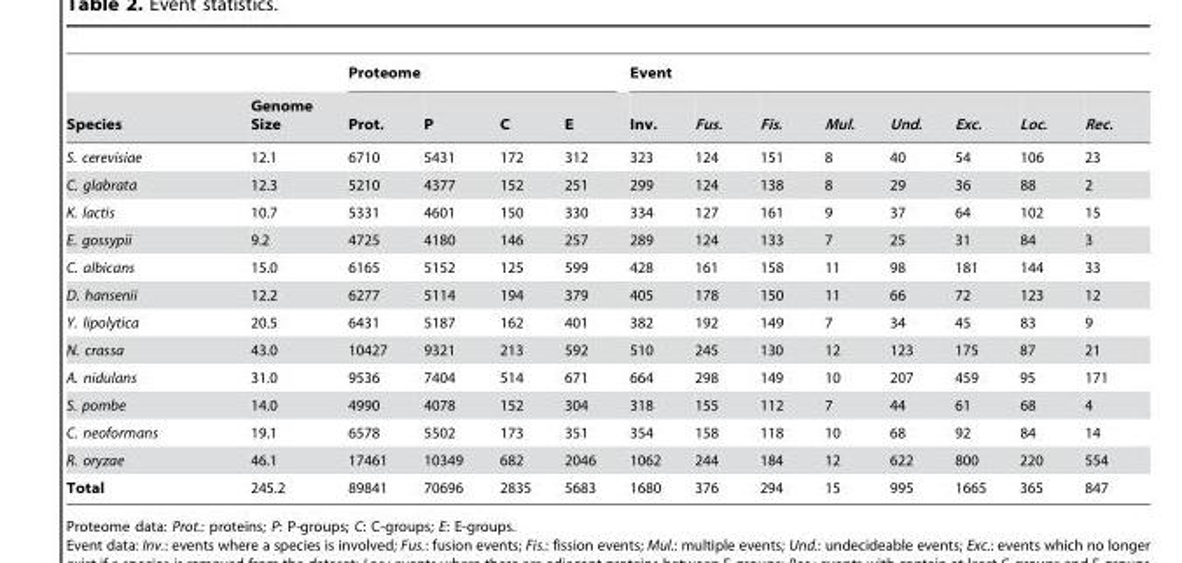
<table><thead><tr><td rowspan="2">Species</td><td rowspan="2">Genome Size</td><td colspan="4">Proteome</td><td colspan="8">Event</td></tr><tr><td>Prot.</td><td>P</td><td>C</td><td>E</td><td>Inv.</td><td>Fus.</td><td>Fis.</td><td>Mul.</td><td>Und.</td><td>Exc.</td><td>Loc.</td><td>Rec.</td></tr></thead><tbody><tr><td>S. cerevisiae</td><td>12.1</td><td>6710</td><td>5431</td><td>172</td><td>312</td><td>323</td><td>124</td><td>151</td><td>8</td><td>40</td><td>54</td><td>106</td><td>23</td></tr><tr><td>C. glabrata</td><td>12.3</td><td>5210</td><td>4377</td><td>152</td><td>251</td><td>299</td><td>124</td><td>138</td><td>8</td><td>29</td><td>36</td><td>88</td><td>2</td></tr><tr><td>K. lactis</td><td>10.7</td><td>5331</td><td>4601</td><td>150</td><td>330</td><td>334</td><td>127</td><td>161</td><td>9</td><td>37</td><td>64</td><td>102</td><td>15</td></tr><tr><td>E. gossypii</td><td>9.2</td><td>4725</td><td>4180</td><td>146</td><td>257</td><td>289</td><td>124</td><td>133</td><td>7</td><td>25</td><td>31</td><td>84</td><td>3</td></tr><tr><td>C. albicans</td><td>15.0</td><td>6165</td><td>5152</td><td>125</td><td>599</td><td>428</td><td>161</td><td>158</td><td>11</td><td>98</td><td>181</td><td>144</td><td>33</td></tr><tr><td>D. hansenii</td><td>12.2</td><td>6277</td><td>5114</td><td>194</td><td>379</td><td>405</td><td>178</td><td>150</td><td>11</td><td>66</td><td>72</td><td>123</td><td>12</td></tr><tr><td>Y. lipolytica</td><td>20.5</td><td>6431</td><td>5187</td><td>162</td><td>401</td><td>382</td><td>192</td><td>149</td><td>7</td><td>34</td><td>45</td><td>83</td><td>9</td></tr><tr><td>N. crassa</td><td>43.0</td><td>10427</td><td>9321</td><td>213</td><td>592</td><td>510</td><td>245</td><td>130</td><td>12</td><td>123</td><td>175</td><td>87</td><td>21</td></tr><tr><td>A. nidulans</td><td>31.0</td><td>9536</td><td>7404</td><td>514</td><td>671</td><td>664</td><td>298</td><td>149</td><td>10</td><td>207</td><td>459</td><td>95</td><td>171</td></tr><tr><td>S. pombe</td><td>14.0</td><td>4990</td><td>4078</td><td>152</td><td>304</td><td>318</td><td>155</td><td>112</td><td>7</td><td>44</td><td>61</td><td>68</td><td>4</td></tr><tr><td>C. neoformans</td><td>19.1</td><td>6578</td><td>5502</td><td>173</td><td>351</td><td>354</td><td>158</td><td>118</td><td>10</td><td>68</td><td>92</td><td>84</td><td>14</td></tr><tr><td>R. oryzae</td><td>46.1</td><td>17461</td><td>10349</td><td>682</td><td>2046</td><td>1062</td><td>244</td><td>184</td><td>12</td><td>622</td><td>800</td><td>220</td><td>554</td></tr><tr><td>Total</td><td>245.2</td><td>89841</td><td>70696</td><td>2835</td><td>5683</td><td>1680</td><td>376</td><td>294</td><td>15</td><td>995</td><td>1665</td><td>365</td><td>847</td></tr></tbody></table>